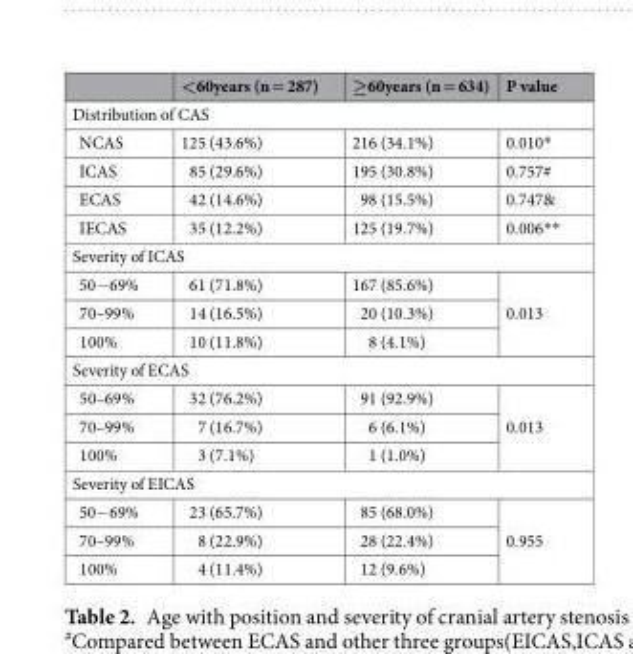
<table><thead><tr><td></td><td>&lt;60years (n = 287)</td><td>≥60years (n = 634)</td><td>P value</td></tr></thead><tbody><tr><td colspan="4">Distribution of CAS</td></tr><tr><td>NCAS</td><td>125 (43.6%)</td><td>216 (34.1%)</td><td>0.010*</td></tr><tr><td>ICAS</td><td>85 (29.6%)</td><td>195 (30.8%)</td><td>0.757#</td></tr><tr><td>ECAS</td><td>42 (14.6%)</td><td>98 (15.5%)</td><td>0.747&amp;</td></tr><tr><td>IECAS</td><td>35 (12.2%)</td><td>125 (19.7%)</td><td>0.006**</td></tr><tr><td colspan="4">Severity of ICAS</td></tr><tr><td>50−69%</td><td>61 (71.8%)</td><td>167 (85.6%)</td><td rowspan="3">0.013</td></tr><tr><td>70–99%</td><td>14 (16.5%)</td><td>20 (10.3%)</td></tr><tr><td>100%</td><td>10 (11.8%)</td><td>8 (4.1%)</td></tr><tr><td colspan="4">Severity of ECAS</td></tr><tr><td>50–69%</td><td>32 (76.2%)</td><td>91 (92.9%)</td><td rowspan="3">0.013</td></tr><tr><td>70–99%</td><td>7 (16.7%)</td><td>6 (6.1%)</td></tr><tr><td>100%</td><td>3 (7.1%)</td><td>1 (1.0%)</td></tr><tr><td colspan="4">Severity of EICAS</td></tr><tr><td>50−69%</td><td>23 (65.7%)</td><td>85 (68.0%)</td><td rowspan="3">0.955</td></tr><tr><td>70–99%</td><td>8 (22.9%)</td><td>28 (22.4%)</td></tr><tr><td>100%</td><td>4 (11.4%)</td><td>12 (9.6%)</td></tr></tbody></table>